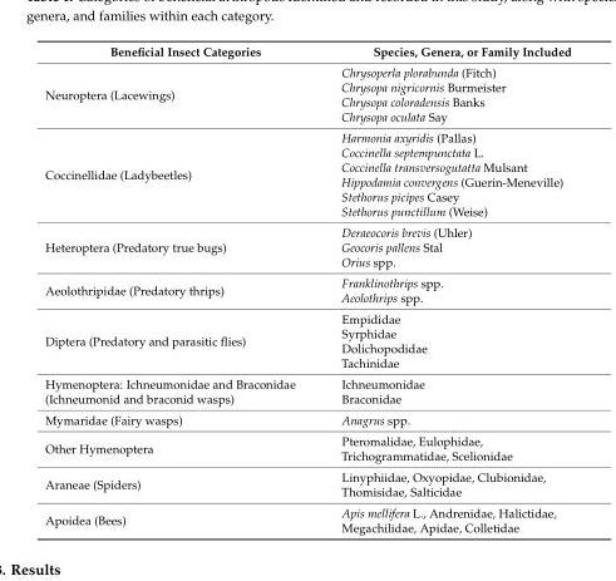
<table><thead><tr><td>Beneficial Insect Categories</td><td>Species, Genera, or Family Included</td></tr></thead><tbody><tr><td>Neuroptera (Lacewings)</td><td>Chrysoperla plorabunda (Fitch) Chrysopa nigricornis Burmeister Chrysopa coloradensis Banks Chrysopa oculata Say</td></tr><tr><td>Coccinellidae (Ladybeetles)</td><td>Harmonia axyridis (Pallas) Coccinella septempunctata L. Coccinella transversogutatta Mulsant Hippodamia convergens (Guerin-Meneville) Stethorus picipes Casey Stethorus punctillum (Weise)</td></tr><tr><td>Heteroptera (Predatory true bugs)</td><td>Deraeocoris brevis (Uhler) Geocoris pallens Stal Orius spp.</td></tr><tr><td>Aeolothripidae (Predatory thrips)</td><td>Franklinothrips spp. Aeolothrips spp.</td></tr><tr><td>Diptera (Predatory and parasitic flies)</td><td>Empididae Syrphidae Dolichopodidae Tachinidae</td></tr><tr><td>Hymenoptera: Ichneumonidae and Braconidae (Ichneumonid and braconid wasps)</td><td>Ichneumonidae Braconidae</td></tr><tr><td>Mymaridae (Fairy wasps)</td><td>Anagrus spp.</td></tr><tr><td>Other Hymenoptera</td><td>Pteromalidae, Eulophidae, Trichogrammatidae, Scelionidae</td></tr><tr><td>Araneae (Spiders)</td><td>Linyphiidae, Oxyopidae, Clubionidae, Thomisidae, Salticidae</td></tr><tr><td>Apoidea (Bees)</td><td>Apis mellifera L., Andrenidae, Halictidae, Megachilidae, Apidae, Colletidae</td></tr></tbody></table>